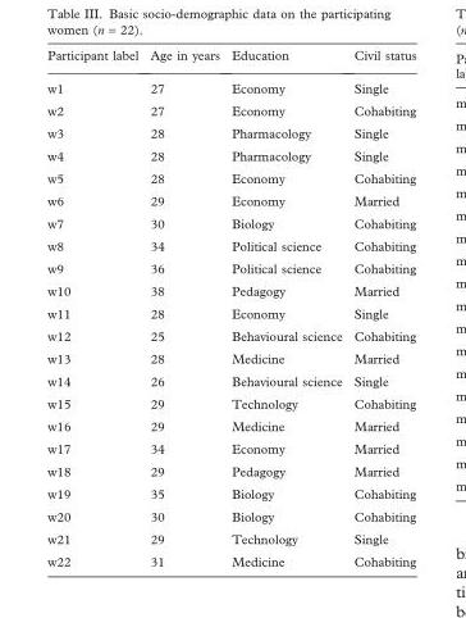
<table><thead><tr><td>Participant label</td><td>Age in years</td><td>Education</td><td>Civil status</td></tr></thead><tbody><tr><td>w1</td><td>27</td><td>Economy</td><td>Single</td></tr><tr><td>w2</td><td>27</td><td>Economy</td><td>Cohabiting</td></tr><tr><td>w3</td><td>28</td><td>Pharmacology</td><td>Single</td></tr><tr><td>w4</td><td>28</td><td>Pharmacology</td><td>Single</td></tr><tr><td>w5</td><td>28</td><td>Economy</td><td>Cohabiting</td></tr><tr><td>w6</td><td>29</td><td>Economy</td><td>Married</td></tr><tr><td>w7</td><td>30</td><td>Biology</td><td>Cohabiting</td></tr><tr><td>w8</td><td>34</td><td>Political science</td><td>Cohabiting</td></tr><tr><td>w9</td><td>36</td><td>Political science</td><td>Cohabiting</td></tr><tr><td>w10</td><td>38</td><td>Pedagogy</td><td>Married</td></tr><tr><td>w11</td><td>28</td><td>Economy</td><td>Single</td></tr><tr><td>w12</td><td>25</td><td>Behavioural science</td><td>Cohabiting</td></tr><tr><td>w13</td><td>28</td><td>Medicine</td><td>Married</td></tr><tr><td>w14</td><td>26</td><td>Behavioural science</td><td>Single</td></tr><tr><td>w15</td><td>29</td><td>Technology</td><td>Cohabiting</td></tr><tr><td>w16</td><td>29</td><td>Medicine</td><td>Married</td></tr><tr><td>w17</td><td>34</td><td>Economy</td><td>Married</td></tr><tr><td>w18</td><td>29</td><td>Pedagogy</td><td>Married</td></tr><tr><td>w19</td><td>35</td><td>Biology</td><td>Cohabiting</td></tr><tr><td>w20</td><td>30</td><td>Biology</td><td>Cohabiting</td></tr><tr><td>w21</td><td>29</td><td>Technology</td><td>Single</td></tr><tr><td>w22</td><td>31</td><td>Medicine</td><td>Cohabiting</td></tr></tbody></table>